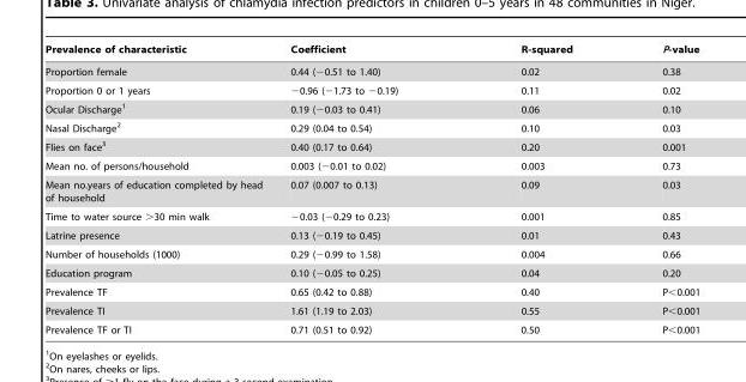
<table><thead><tr><td>Prevalence of characteristic</td><td>Coefficient</td><td>R-squared</td><td>P-value</td></tr></thead><tbody><tr><td>Proportion female</td><td>0.44 (−0.51 to 1.40)</td><td>0.02</td><td>0.38</td></tr><tr><td>Proportion 0 or 1 years</td><td>−0.96 (−1.73 to −0.19)</td><td>0.11</td><td>0.02</td></tr><tr><td>Ocular Discharge<sup>1</sup></td><td>0.19 (−0.03 to 0.41)</td><td>0.06</td><td>0.10</td></tr><tr><td>Nasal Discharge<sup>2</sup></td><td>0.29 (0.04 to 0.54)</td><td>0.10</td><td>0.03</td></tr><tr><td>Flies on face<sup>3</sup></td><td>0.40 (0.17 to 0.64)</td><td>0.20</td><td>0.001</td></tr><tr><td>Mean no. of persons/household</td><td>0.003 (−0.01 to 0.02)</td><td>0.003</td><td>0.73</td></tr><tr><td>Mean no.years of education completed by head of household</td><td>0.07 (0.007 to 0.13)</td><td>0.09</td><td>0.03</td></tr><tr><td>Time to water source &gt;30 min walk</td><td>−0.03 (−0.29 to 0.23)</td><td>0.001</td><td>0.85</td></tr><tr><td>Latrine presence</td><td>0.13 (−0.19 to 0.45)</td><td>0.01</td><td>0.43</td></tr><tr><td>Number of households (1000)</td><td>0.29 (−0.99 to 1.58)</td><td>0.004</td><td>0.66</td></tr><tr><td>Education program</td><td>0.10 (−0.05 to 0.25)</td><td>0.04</td><td>0.20</td></tr><tr><td>Prevalence TF</td><td>0.65 (0.42 to 0.88)</td><td>0.40</td><td>P&lt;0.001</td></tr><tr><td>Prevalence TI</td><td>1.61 (1.19 to 2.03)</td><td>0.55</td><td>P&lt;0.001</td></tr><tr><td>Prevalence TF or TI</td><td>0.71 (0.51 to 0.92)</td><td>0.50</td><td>P&lt;0.001</td></tr></tbody></table>